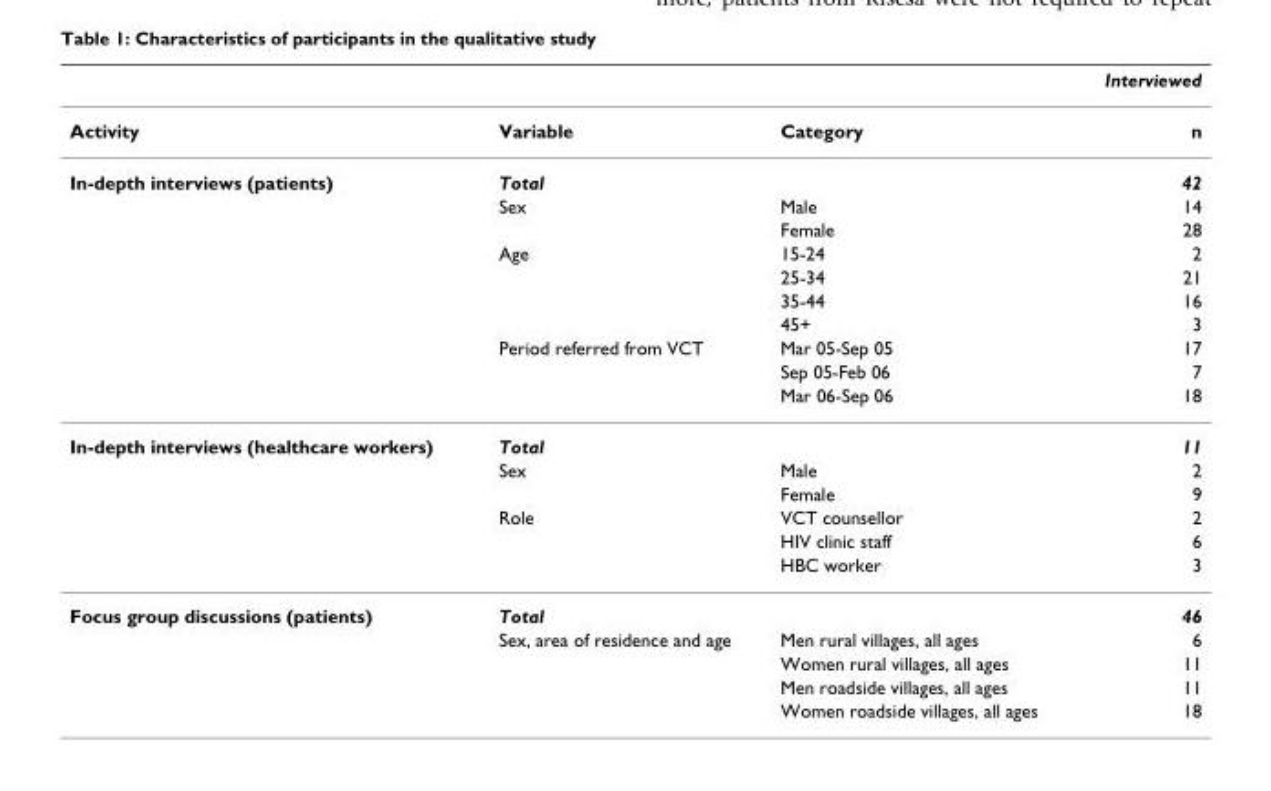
<table><thead><tr><td></td><td></td><td></td><td>Interviewed</td></tr></thead><tbody><tr><td>Activity</td><td>Variable</td><td>Category</td><td>n</td></tr><tr><td rowspan="10">In-depth interviews (patients)</td><td>Total</td><td></td><td>42</td></tr><tr><td>Sex</td><td>Male</td><td>14</td></tr><tr><td></td><td>Female</td><td>28</td></tr><tr><td>Age</td><td>15-24</td><td>2</td></tr><tr><td></td><td>25-34</td><td>21</td></tr><tr><td></td><td>35-44</td><td>16</td></tr><tr><td></td><td>45+</td><td>3</td></tr><tr><td>Period referred from VCT</td><td>Mar 05-Sep 05</td><td>17</td></tr><tr><td></td><td>Sep 05-Feb 06</td><td>7</td></tr><tr><td></td><td>Mar 06-Sep 06</td><td>18</td></tr><tr><td rowspan="6">In-depth interviews (healthcare workers)</td><td>Total</td><td></td><td>11</td></tr><tr><td>Sex</td><td>Male</td><td>2</td></tr><tr><td></td><td>Female</td><td>9</td></tr><tr><td>Role</td><td>VCT counsellor</td><td>2</td></tr><tr><td></td><td>HIV clinic staff</td><td>6</td></tr><tr><td></td><td>HBC worker</td><td>3</td></tr><tr><td rowspan="5">Focus group discussions (patients)</td><td>Total</td><td></td><td>46</td></tr><tr><td>Sex, area of residence and age</td><td>Men rural villages, all ages</td><td>6</td></tr><tr><td></td><td>Women rural villages, all ages</td><td>11</td></tr><tr><td></td><td>Men roadside villages, all ages</td><td>11</td></tr><tr><td></td><td>Women roadside villages, all ages</td><td>18</td></tr></tbody></table>